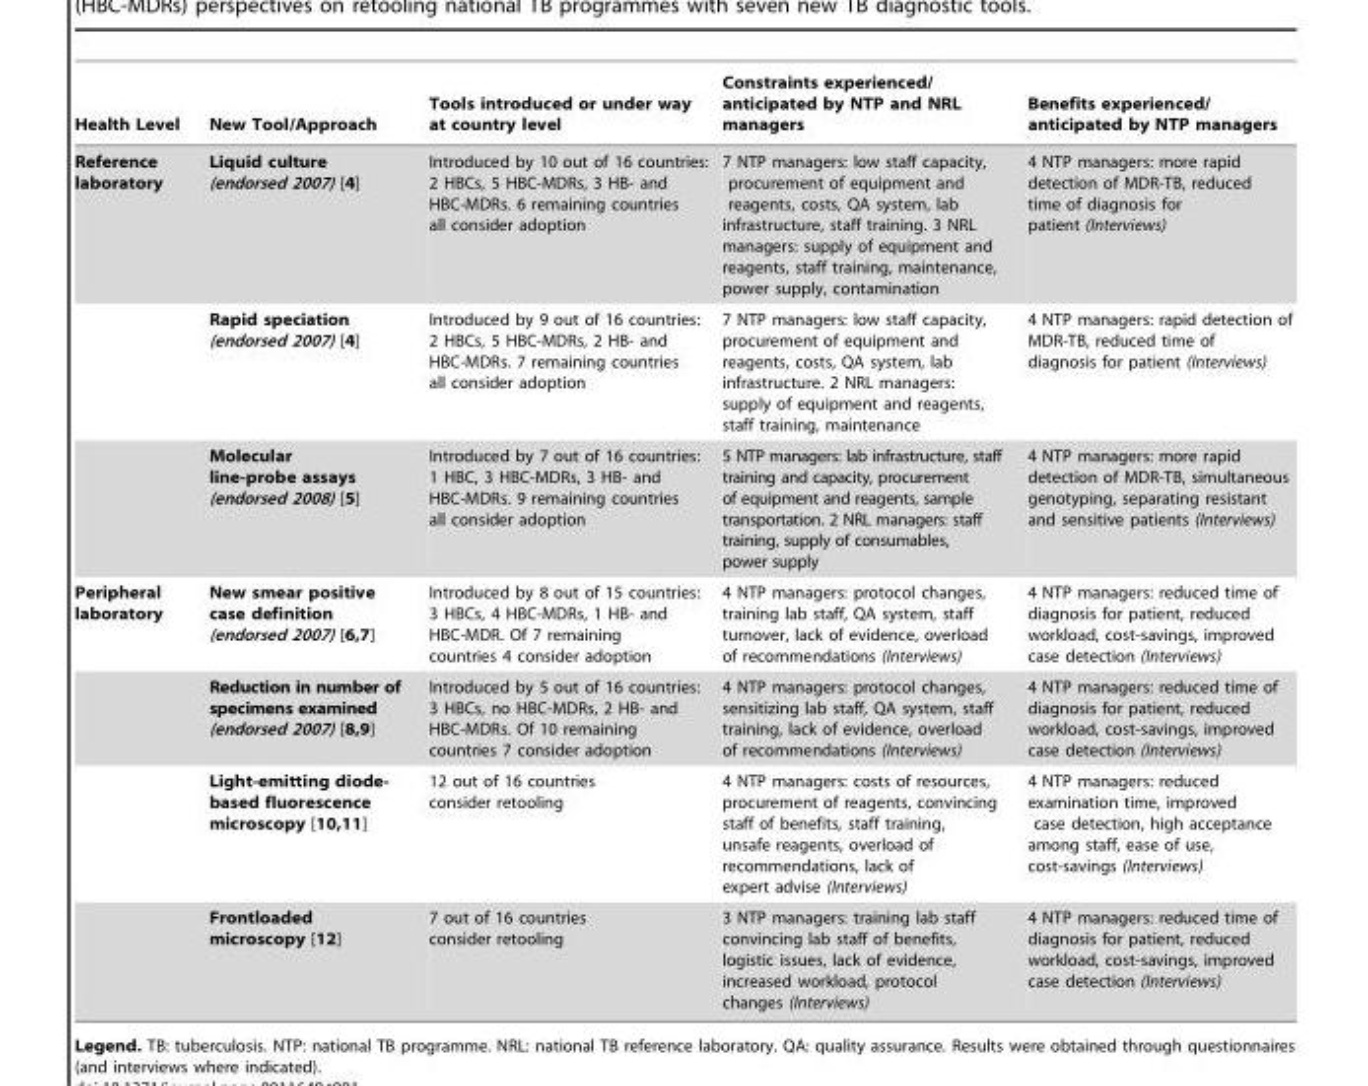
<table><thead><tr><td>Health Level</td><td>New Tool/Approach</td><td>Tools introduced or under way at country level</td><td>Constraints experienced/ anticipated by NTP and NRL managers</td><td>Benefits experienced/ anticipated by NTP managers</td></tr></thead><tbody><tr><td rowspan="3">Reference laboratory</td><td>Liquid culture (endorsed 2007) [4]</td><td>Introduced by 10 out of 16 countries: 2 HBCs, 5 HBC-MDRs, 3 HB- and HBC-MDRs. 6 remaining countries all consider adoption</td><td>7 NTP managers: low staff capacity, procurement of equipment and reagents, costs, QA system, lab infrastructure, staff training. 3 NRL managers: supply of equipment and reagents, staff training, maintenance, power supply, contamination</td><td>4 NTP managers: more rapid detection of MDR-TB, reduced time of diagnosis for patient (Interviews)</td></tr><tr><td>Rapid speciation (endorsed 2007) [4]</td><td>Introduced by 9 out of 16 countries: 2 HBCs, 5 HBC-MDRs, 2 HB- and HBC-MDRs. 7 remaining countries all consider adoption</td><td>7 NTP managers: low staff capacity, procurement of equipment and reagents, costs, QA system, lab infrastructure. 2 NRL managers: supply of equipment and reagents, staff training, maintenance</td><td>4 NTP managers: rapid detection of MDR-TB, reduced time of diagnosis for patient (Interviews)</td></tr><tr><td>Molecular line-probe assays (endorsed 2008) [5]</td><td>Introduced by 7 out of 16 countries: 1 HBC, 3 HBC-MDRs, 3 HB- and HBC-MDRs. 9 remaining countries all consider adoption</td><td>5 NTP managers: lab infrastructure, staff training and capacity, procurement of equipment and reagents, sample transportation. 2 NRL managers: staff training, supply of consumables, power supply</td><td>4 NTP managers: more rapid detection of MDR-TB, simultaneous genotyping, separating resistant and sensitive patients (Interviews)</td></tr><tr><td rowspan="4">Peripheral laboratory</td><td>New smear positive case definition (endorsed 2007) [6,7]</td><td>Introduced by 8 out of 15 countries: 3 HBCs, 4 HBC-MDRs, 1 HB- and HBC-MDR. Of 7 remaining countries 4 consider adoption</td><td>4 NTP managers: protocol changes, training lab staff, QA system, staff turnover, lack of evidence, overload of recommendations (Interviews)</td><td>4 NTP managers: reduced time of diagnosis for patient, reduced workload, cost-savings, improved case detection (Interviews)</td></tr><tr><td>Reduction in number of specimens examined (endorsed 2007) [8,9]</td><td>Introduced by 5 out of 16 countries: 3 HBCs, no HBC-MDRs, 2 HB- and HBC-MDRs. Of 10 remaining countries 7 consider adoption</td><td>4 NTP managers: protocol changes, sensitizing lab staff, QA system, staff training, lack of evidence, overload of recommendations (Interviews)</td><td>4 NTP managers: reduced time of diagnosis for patient, reduced workload, cost-savings, improved case detection (Interviews)</td></tr><tr><td>Light-emitting diode- based fluorescence microscopy [10,11]</td><td>12 out of 16 countries consider retooling</td><td>4 NTP managers: costs of resources, procurement of reagents, convincing staff of benefits, staff training, unsafe reagents, overload of recommendations, lack of expert advise (Interviews)</td><td>4 NTP managers: reduced examination time, improved case detection, high acceptance among staff, ease of use, cost-savings (Interviews)</td></tr><tr><td>Frontloaded microscopy [12]</td><td>7 out of 16 countries consider retooling</td><td>3 NTP managers: training lab staff convincing lab staff of benefits, logistic issues, lack of evidence, increased workload, protocol changes (Interviews)</td><td>4 NTP managers: reduced time of diagnosis for patient, reduced workload, cost-savings, improved case detection (Interviews)</td></tr></tbody></table>